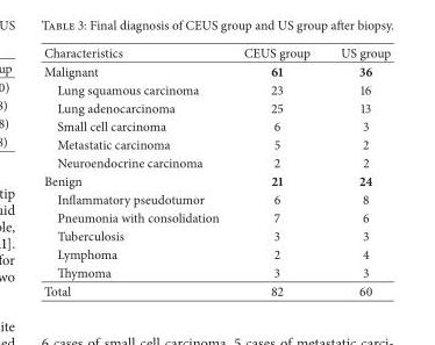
<table><thead><tr><td>Characteristics</td><td>CEUS group</td><td>US group</td></tr></thead><tbody><tr><td>Malignant</td><td>61</td><td>36</td></tr><tr><td>Lung squamous carcinoma</td><td>23</td><td>16</td></tr><tr><td>Lung adenocarcinoma</td><td>25</td><td>13</td></tr><tr><td>Small cell carcinoma</td><td>6</td><td>3</td></tr><tr><td>Metastatic carcinoma</td><td>5</td><td>2</td></tr><tr><td>Neuroendocrine carcinoma</td><td>2</td><td>2</td></tr><tr><td>Benign</td><td>21</td><td>24</td></tr><tr><td>Inflammatory pseudotumor</td><td>6</td><td>8</td></tr><tr><td>Pneumonia with consolidation</td><td>7</td><td>6</td></tr><tr><td>Tuberculosis</td><td>3</td><td>3</td></tr><tr><td>Lymphoma</td><td>2</td><td>4</td></tr><tr><td>Thymoma</td><td>3</td><td>3</td></tr><tr><td>Total</td><td>82</td><td>60</td></tr></tbody></table>